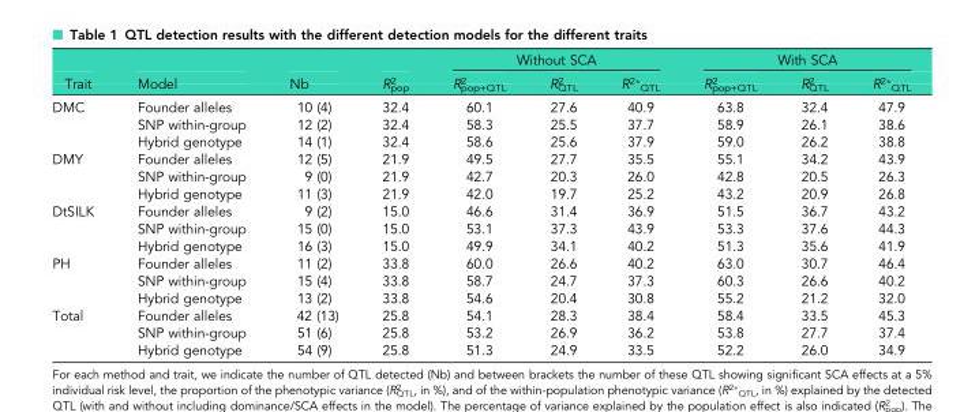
<table><thead><tr><td rowspan="2">Trait</td><td rowspan="2">Model</td><td rowspan="2">Nb</td><td rowspan="2">R<sup>2</sup><sub>pop</sub></td><td colspan="3">Without SCA</td><td colspan="3">With SCA</td></tr><tr><td>R<sup>2</sup><sub>pop+QTL</sub></td><td>R<sup>2</sup><sub>QTL</sub></td><td>R<sup>2</sup>*<sub>QTL</sub></td><td>R<sup>2</sup><sub>pop+QTL</sub></td><td>R<sup>2</sup><sub>QTL</sub></td><td>R<sup>2</sup>*<sub>QTL</sub></td></tr></thead><tbody><tr><td rowspan="3">DMC</td><td>Founder alleles</td><td>10 (4)</td><td>32.4</td><td>60.1</td><td>27.6</td><td>40.9</td><td>63.8</td><td>32.4</td><td>47.9</td></tr><tr><td>SNP within-group</td><td>12 (2)</td><td>32.4</td><td>58.3</td><td>25.5</td><td>37.7</td><td>58.9</td><td>26.1</td><td>38.6</td></tr><tr><td>Hybrid genotype</td><td>14 (1)</td><td>32.4</td><td>58.6</td><td>25.6</td><td>37.9</td><td>59.0</td><td>26.2</td><td>38.8</td></tr><tr><td rowspan="3">DMY</td><td>Founder alleles</td><td>12 (5)</td><td>21.9</td><td>49.5</td><td>27.7</td><td>35.5</td><td>55.1</td><td>34.2</td><td>43.9</td></tr><tr><td>SNP within-group</td><td>9 (0)</td><td>21.9</td><td>42.7</td><td>20.3</td><td>26.0</td><td>42.8</td><td>20.5</td><td>26.3</td></tr><tr><td>Hybrid genotype</td><td>11 (3)</td><td>21.9</td><td>42.0</td><td>19.7</td><td>25.2</td><td>43.2</td><td>20.9</td><td>26.8</td></tr><tr><td rowspan="3">DtSILK</td><td>Founder alleles</td><td>9 (2)</td><td>15.0</td><td>46.6</td><td>31.4</td><td>36.9</td><td>51.5</td><td>36.7</td><td>43.2</td></tr><tr><td>SNP within-group</td><td>15 (0)</td><td>15.0</td><td>53.1</td><td>37.3</td><td>43.9</td><td>53.3</td><td>37.6</td><td>44.3</td></tr><tr><td>Hybrid genotype</td><td>16 (3)</td><td>15.0</td><td>49.9</td><td>34.1</td><td>40.2</td><td>51.3</td><td>35.6</td><td>41.9</td></tr><tr><td rowspan="3">PH</td><td>Founder alleles</td><td>11 (2)</td><td>33.8</td><td>60.0</td><td>26.6</td><td>40.2</td><td>63.0</td><td>30.7</td><td>46.4</td></tr><tr><td>SNP within-group</td><td>15 (4)</td><td>33.8</td><td>58.7</td><td>24.7</td><td>37.3</td><td>60.3</td><td>26.6</td><td>40.2</td></tr><tr><td>Hybrid genotype</td><td>13 (2)</td><td>33.8</td><td>54.6</td><td>20.4</td><td>30.8</td><td>55.2</td><td>21.2</td><td>32.0</td></tr><tr><td rowspan="3">Total</td><td>Founder alleles</td><td>42 (13)</td><td>25.8</td><td>54.1</td><td>28.3</td><td>38.4</td><td>58.4</td><td>33.5</td><td>45.3</td></tr><tr><td>SNP within-group</td><td>51 (6)</td><td>25.8</td><td>53.2</td><td>26.9</td><td>36.2</td><td>53.8</td><td>27.7</td><td>37.4</td></tr><tr><td>Hybrid genotype</td><td>54 (9)</td><td>25.8</td><td>51.3</td><td>24.9</td><td>33.5</td><td>52.2</td><td>26.0</td><td>34.9</td></tr></tbody></table>